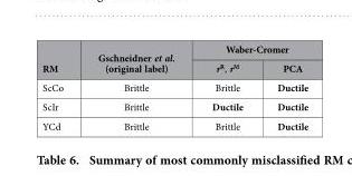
<table><thead><tr><td rowspan="2">RM</td><td rowspan="2">Gschneidner et al. (original label)</td><td colspan="2">Waber-Cromer</td></tr><tr><td>r<sup>R</sup>, r<sup>M</sup></td><td>PCA</td></tr></thead><tbody><tr><td>ScCo</td><td>Brittle</td><td>Brittle</td><td>Ductile</td></tr><tr><td>ScIr</td><td>Brittle</td><td>Ductile</td><td>Ductile</td></tr><tr><td>YCd</td><td>Brittle</td><td>Brittle</td><td>Ductile</td></tr></tbody></table>